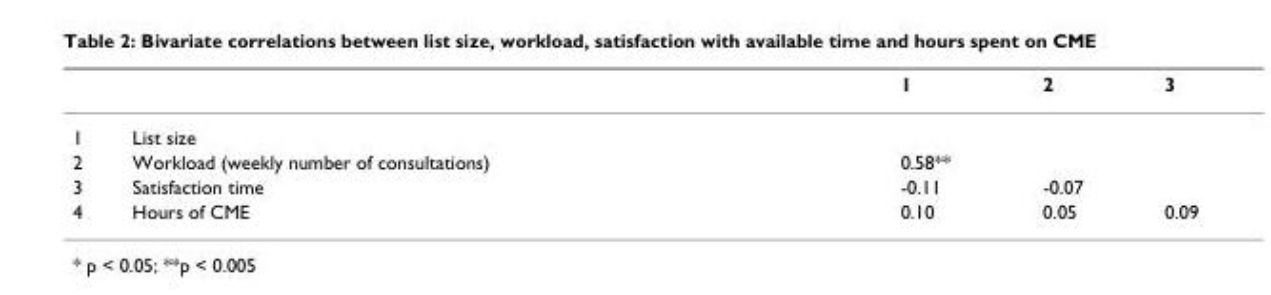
<table><thead><tr><td></td><td></td><td>1</td><td>2</td><td>3</td></tr></thead><tbody><tr><td>1</td><td>List size</td><td></td><td></td><td></td></tr><tr><td>2</td><td>Workload (weekly number of consultations)</td><td>0.58**</td><td></td><td></td></tr><tr><td>3</td><td>Satisfaction time</td><td>-0.11</td><td>-0.07</td><td></td></tr><tr><td>4</td><td>Hours of CME</td><td>0.10</td><td>0.05</td><td>0.09</td></tr></tbody></table>